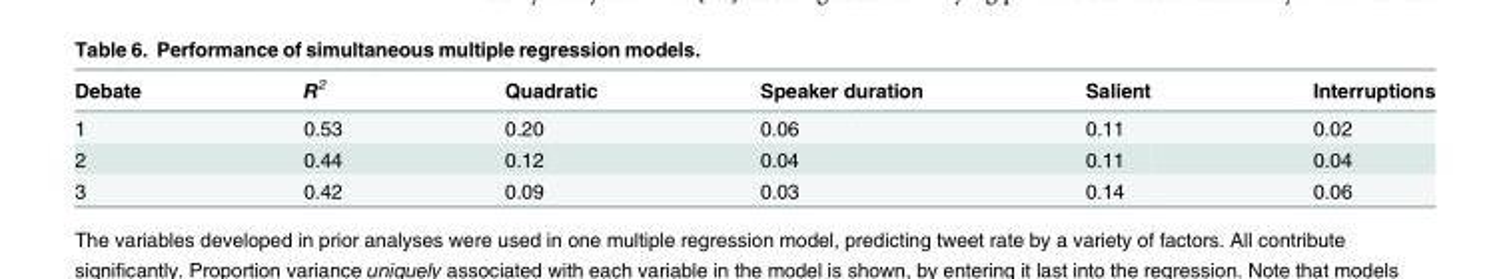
<table><thead><tr><td>Debate</td><td>R<sup>2</sup></td><td>Quadratic</td><td>Speaker duration</td><td>Salient</td><td>Interruptions</td></tr></thead><tbody><tr><td>1</td><td>0.53</td><td>0.20</td><td>0.06</td><td>0.11</td><td>0.02</td></tr><tr><td>2</td><td>0.44</td><td>0.12</td><td>0.04</td><td>0.11</td><td>0.04</td></tr><tr><td>3</td><td>0.42</td><td>0.09</td><td>0.03</td><td>0.14</td><td>0.06</td></tr></tbody></table>